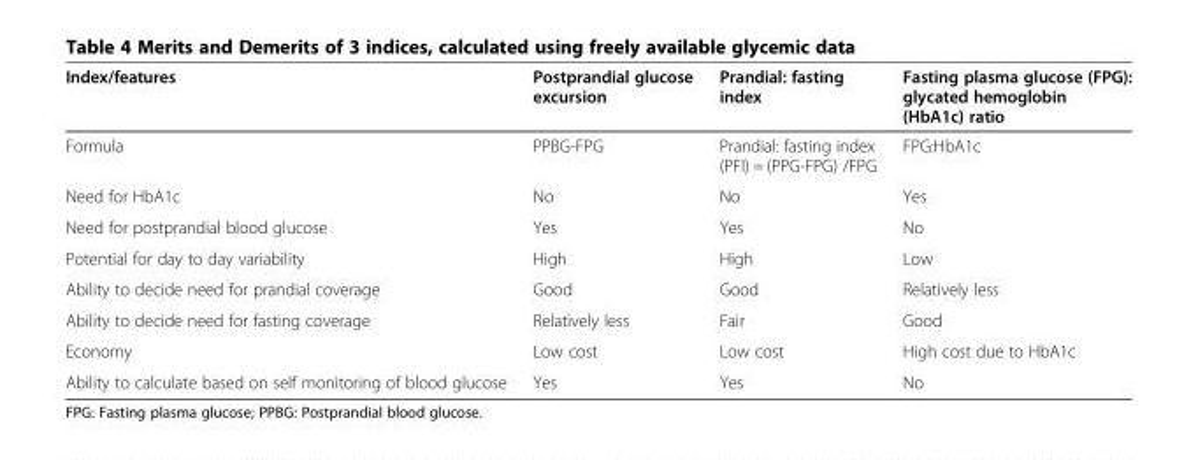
<table><thead><tr><td>Index/features</td><td>Postprandial glucose excursion</td><td>Prandial: fasting index</td><td>Fasting plasma glucose (FPG): glycated hemoglobin (HbA1c) ratio</td></tr></thead><tbody><tr><td>Formula</td><td>PPBG-FPG</td><td>Prandial: fasting index (PFI) = (PPG-FPG) /FPG</td><td>FPG:HbA1c</td></tr><tr><td>Need for HbA1c</td><td>No</td><td>No</td><td>Yes</td></tr><tr><td>Need for postprandial blood glucose</td><td>Yes</td><td>Yes</td><td>No</td></tr><tr><td>Potential for day to day variability</td><td>High</td><td>High</td><td>Low</td></tr><tr><td>Ability to decide need for prandial coverage</td><td>Good</td><td>Good</td><td>Relatively less</td></tr><tr><td>Ability to decide need for fasting coverage</td><td>Relatively less</td><td>Fair</td><td>Good</td></tr><tr><td>Economy</td><td>Low cost</td><td>Low cost</td><td>High cost due to HbA1c</td></tr><tr><td>Ability to calculate based on self monitoring of blood glucose</td><td>Yes</td><td>Yes</td><td>No</td></tr></tbody></table>